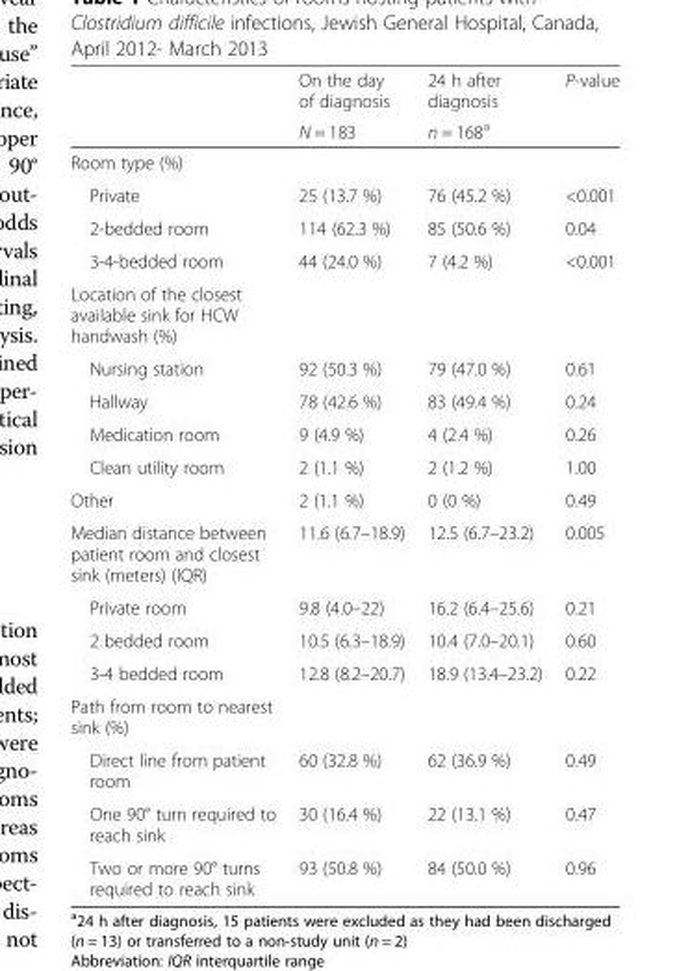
<table><thead><tr><td rowspan="2"></td><td rowspan="2">On the day of diagnosis N = 183</td><td rowspan="2">24 h after diagnosis n = 168<sup>a</sup></td><td rowspan="2">P-value</td></tr><tr></tr></thead><tbody><tr><td colspan="4">Room type (%)</td></tr><tr><td>Private</td><td>25 (13.7 %)</td><td>76 (45.2 %)</td><td>&lt;0.001</td></tr><tr><td>2-bedded room</td><td>114 (62.3 %)</td><td>85 (50.6 %)</td><td>0.04</td></tr><tr><td>3-4-bedded room</td><td>44 (24.0 %)</td><td>7 (4.2 %)</td><td>&lt;0.001</td></tr><tr><td colspan="4">Location of the closest available sink for HCW handwash (%)</td></tr><tr><td>Nursing station</td><td>92 (50.3 %)</td><td>79 (47.0 %)</td><td>0.61</td></tr><tr><td>Hallway</td><td>78 (42.6 %)</td><td>83 (49.4 %)</td><td>0.24</td></tr><tr><td>Medication room</td><td>9 (4.9 %)</td><td>4 (2.4 %)</td><td>0.26</td></tr><tr><td>Clean utility room</td><td>2 (1.1 %)</td><td>2 (1.2 %)</td><td>1.00</td></tr><tr><td>Other</td><td>2 (1.1 %)</td><td>0 (0 %)</td><td>0.49</td></tr><tr><td>Median distance between patient room and closest sink (meters) (IQR)</td><td>11.6 (6.7–18.9)</td><td>12.5 (6.7–23.2)</td><td>0.005</td></tr><tr><td>Private room</td><td>9.8 (4.0–22)</td><td>16.2 (6.4–25.6)</td><td>0.21</td></tr><tr><td>2 bedded room</td><td>10.5 (6.3–18.9)</td><td>10.4 (7.0–20.1)</td><td>0.60</td></tr><tr><td>3-4 bedded room</td><td>12.8 (8.2–20.7)</td><td>18.9 (13.4–23.2)</td><td>0.22</td></tr><tr><td colspan="4">Path from room to nearest sink (%)</td></tr><tr><td>Direct line from patient room</td><td>60 (32.8 %)</td><td>62 (36.9 %)</td><td>0.49</td></tr><tr><td>One 90° turn required to reach sink</td><td>30 (16.4 %)</td><td>22 (13.1 %)</td><td>0.47</td></tr><tr><td>Two or more 90° turns required to reach sink</td><td>93 (50.8 %)</td><td>84 (50.0 %)</td><td>0.96</td></tr></tbody></table>